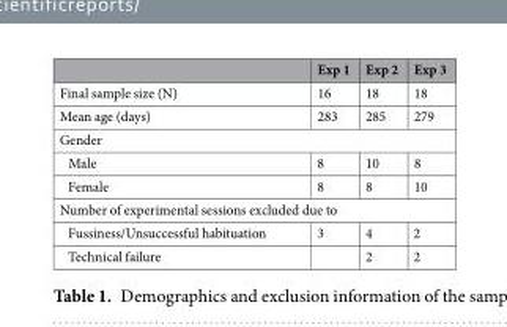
<table><thead><tr><td></td><td>Exp 1</td><td>Exp 2</td><td>Exp 3</td></tr></thead><tbody><tr><td>Final sample size (N)</td><td>16</td><td>18</td><td>18</td></tr><tr><td>Mean age (days)</td><td>283</td><td>285</td><td>279</td></tr><tr><td colspan="4">Gender</td></tr><tr><td>Male</td><td>8</td><td>10</td><td>8</td></tr><tr><td>Female</td><td>8</td><td>8</td><td>10</td></tr><tr><td colspan="4">Number of experimental sessions excluded due to</td></tr><tr><td>Fussiness/Unsuccessful habituation</td><td>3</td><td>4</td><td>2</td></tr><tr><td>Technical failure</td><td></td><td>2</td><td>2</td></tr></tbody></table>